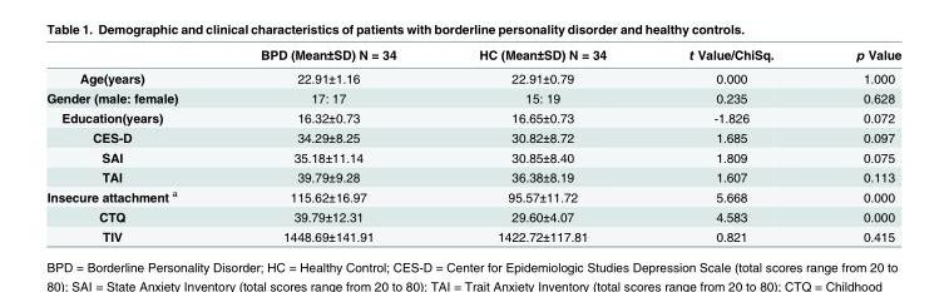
<table><thead><tr><td></td><td>BPD (Mean±SD) N = 34</td><td>HC (Mean±SD) N = 34</td><td>t Value/ChiSq.</td><td>p Value</td></tr></thead><tbody><tr><td>Age(years)</td><td>22.91±1.16</td><td>22.91±0.79</td><td>0.000</td><td>1.000</td></tr><tr><td>Gender (male: female)</td><td>17: 17</td><td>15: 19</td><td>0.235</td><td>0.628</td></tr><tr><td>Education(years)</td><td>16.32±0.73</td><td>16.65±0.73</td><td>-1.826</td><td>0.072</td></tr><tr><td>CES-D</td><td>34.29±8.25</td><td>30.82±8.72</td><td>1.685</td><td>0.097</td></tr><tr><td>SAI</td><td>35.18±11.14</td><td>30.85±8.40</td><td>1.809</td><td>0.075</td></tr><tr><td>TAI</td><td>39.79±9.28</td><td>36.38±8.19</td><td>1.607</td><td>0.113</td></tr><tr><td>Insecure attachment <sup>a</sup></td><td>115.62±16.97</td><td>95.57±11.72</td><td>5.668</td><td>0.000</td></tr><tr><td>CTQ</td><td>39.79±12.31</td><td>29.60±4.07</td><td>4.583</td><td>0.000</td></tr><tr><td>TIV</td><td>1448.69±141.91</td><td>1422.72±117.81</td><td>0.821</td><td>0.415</td></tr></tbody></table>